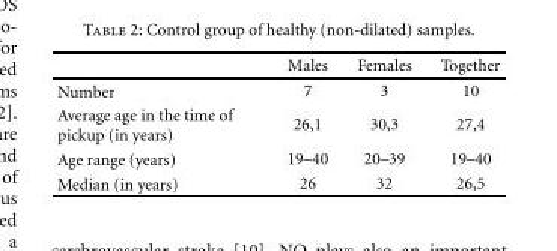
<table><thead><tr><td></td><td>Males</td><td>Females</td><td>Together</td></tr></thead><tbody><tr><td>Number</td><td>7</td><td>3</td><td>10</td></tr><tr><td>Average age in the time of pickup (in years)</td><td>26,1</td><td>30,3</td><td>27,4</td></tr><tr><td>Age range (years)</td><td>19–40</td><td>20–39</td><td>19–40</td></tr><tr><td>Median (in years)</td><td>26</td><td>32</td><td>26,5</td></tr></tbody></table>